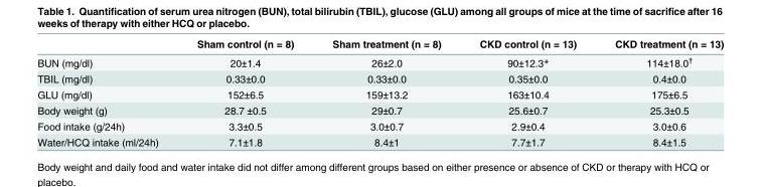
<table><thead><tr><td></td><td>Sham control (n = 8)</td><td>Sham treatment (n = 8)</td><td>CKD control (n = 13)</td><td>CKD treatment (n = 13)</td></tr></thead><tbody><tr><td>BUN (mg/dl)</td><td>20±1.4</td><td>26±2.0</td><td>90±12.3*</td><td>114±18.0<sup>†</sup></td></tr><tr><td>TBIL (mg/dl)</td><td>0.33±0.0</td><td>0.33±0.0</td><td>0.35±0.0</td><td>0.4±0.0</td></tr><tr><td>GLU (mg/dl)</td><td>152±6.5</td><td>159±13.2</td><td>163±10.4</td><td>175±6.5</td></tr><tr><td>Body weight (g)</td><td>28.7 ±0.5</td><td>29±0.7</td><td>25.6±0.7</td><td>25.3±0.5</td></tr><tr><td>Food intake (g/24h)</td><td>3.3±0.5</td><td>3.0±0.7</td><td>2.9±0.4</td><td>3.0±0.6</td></tr><tr><td>Water/HCQ intake (ml/24h)</td><td>7.1±1.8</td><td>8.4±1</td><td>7.7±1.7</td><td>8.4±1.5</td></tr></tbody></table>